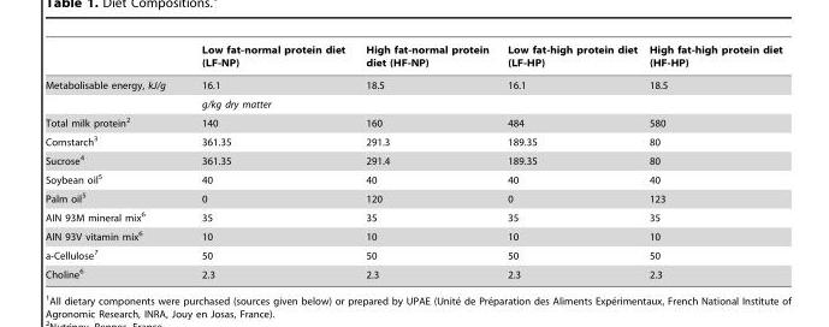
<table><thead><tr><td></td><td>Low fat-normal protein diet (LF-NP)</td><td>High fat-normal protein diet (HF-NP)</td><td>Low fat-high protein diet (LF-HP)</td><td>High fat-high protein diet (HF-HP)</td></tr></thead><tbody><tr><td rowspan="2">Metabolisable energy, kJ/g</td><td>16.1</td><td>18.5</td><td>16.1</td><td>18.5</td></tr><tr><td colspan="4">g/kg dry matter</td></tr><tr><td>Total milk protein<sup>2</sup></td><td>140</td><td>160</td><td>484</td><td>580</td></tr><tr><td>Cornstarch<sup>3</sup></td><td>361.35</td><td>291.3</td><td>189.35</td><td>80</td></tr><tr><td>Sucrose<sup>4</sup></td><td>361.35</td><td>291.4</td><td>189.35</td><td>80</td></tr><tr><td>Soybean oil<sup>5</sup></td><td>40</td><td>40</td><td>40</td><td>40</td></tr><tr><td>Palm oil<sup>5</sup></td><td>0</td><td>120</td><td>0</td><td>123</td></tr><tr><td>AIN 93M mineral mix<sup>6</sup></td><td>35</td><td>35</td><td>35</td><td>35</td></tr><tr><td>AIN 93V vitamin mix<sup>6</sup></td><td>10</td><td>10</td><td>10</td><td>10</td></tr><tr><td>a-Cellulose<sup>7</sup></td><td>50</td><td>50</td><td>50</td><td>50</td></tr><tr><td>Choline<sup>6</sup></td><td>2.3</td><td>2.3</td><td>2.3</td><td>2.3</td></tr></tbody></table>